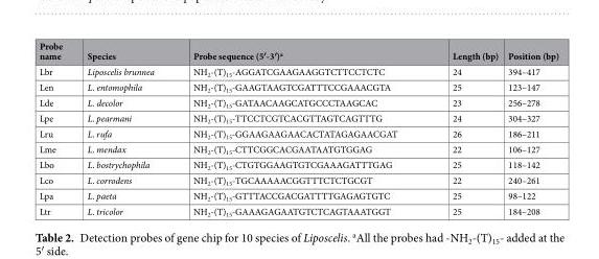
<table><thead><tr><td>Probe name</td><td>Species</td><td>Probe sequence (5′-3′)<sup>a</sup></td><td>Length (bp)</td><td>Position (bp)</td></tr></thead><tbody><tr><td>Lbr</td><td>Liposcelis brunnea</td><td>NH<sub>2</sub>-(T)<sub>15</sub>-AGGATCGAAGAAGGTCTTCCTCTC</td><td>24</td><td>394–417</td></tr><tr><td>Len</td><td>L. entomophila</td><td>NH<sub>2</sub>-(T)<sub>15</sub>-GAAGTAAGTCGATTTCCGAAACGTA</td><td>25</td><td>123–147</td></tr><tr><td>Lde</td><td>L. decolor</td><td>NH<sub>2</sub>-(T)<sub>15</sub>-GATAACAAGCATGCCCTAAGCAC</td><td>23</td><td>256–278</td></tr><tr><td>Lpe</td><td>L. pearmani</td><td>NH<sub>2</sub>-(T)<sub>15</sub>-TTCCTCGTCACGTTAGTCAGTTTG</td><td>24</td><td>304–327</td></tr><tr><td>Lru</td><td>L. rufa</td><td>NH<sub>2</sub>-(T)<sub>15</sub>-GGAAGAAGAACACTATAGAGAACGAT</td><td>26</td><td>186–211</td></tr><tr><td>Lme</td><td>L. mendax</td><td>NH<sub>2</sub>-(T)<sub>15</sub>-CTTCGGCACGAATAATGTGGAG</td><td>22</td><td>106–127</td></tr><tr><td>Lbo</td><td>L. bostrychophila</td><td>NH<sub>2</sub>-(T)<sub>15</sub>-CTGTGGAAGTGTCGAAAGATTTGAG</td><td>25</td><td>118–142</td></tr><tr><td>Lco</td><td>L. corrodens</td><td>NH<sub>2</sub>-(T)<sub>15</sub>-TGCAAAAACGGTTTCTCTGCGT</td><td>22</td><td>240–261</td></tr><tr><td>Lpa</td><td>L. paeta</td><td>NH<sub>2</sub>-(T)<sub>15</sub>-GTTTACCGACGATTTTGAGAGTGTC</td><td>25</td><td>98–122</td></tr><tr><td>Ltr</td><td>L. tricolor</td><td>NH<sub>2</sub>-(T)<sub>15</sub>-GAAAGAGAATGTCTCAGTAAATGGT</td><td>25</td><td>184–208</td></tr></tbody></table>